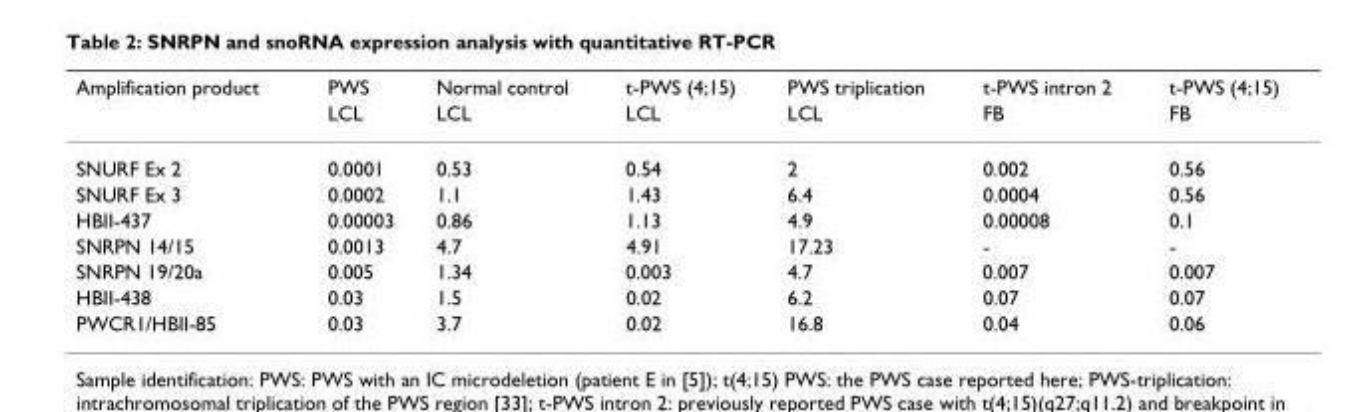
<table><thead><tr><td rowspan="2">Amplification product</td><td rowspan="2">PWS LCL</td><td rowspan="2">Normal control LCL</td><td rowspan="2">t-PWS (4;15) LCL</td><td rowspan="2">PWS triplication LCL</td><td rowspan="2">t-PWS intron 2 FB</td><td rowspan="2">t-PWS (4;15) FB</td></tr><tr></tr></thead><tbody><tr><td>SNURF Ex 2</td><td>0.0001</td><td>0.53</td><td>0.54</td><td>2</td><td>0.002</td><td>0.56</td></tr><tr><td>SNURF Ex 3</td><td>0.0002</td><td>1.1</td><td>1.43</td><td>6.4</td><td>0.0004</td><td>0.56</td></tr><tr><td>HBII-437</td><td>0.00003</td><td>0.86</td><td>1.13</td><td>4.9</td><td>0.00008</td><td>0.1</td></tr><tr><td>SNRPN 14/15</td><td>0.0013</td><td>4.7</td><td>4.91</td><td>17.23</td><td>-</td><td>-</td></tr><tr><td>SNRPN 19/20a</td><td>0.005</td><td>1.34</td><td>0.003</td><td>4.7</td><td>0.007</td><td>0.007</td></tr><tr><td>HBII-438</td><td>0.03</td><td>1.5</td><td>0.02</td><td>6.2</td><td>0.07</td><td>0.07</td></tr><tr><td>PWCR1/HBII-85</td><td>0.03</td><td>3.7</td><td>0.02</td><td>16.8</td><td>0.04</td><td>0.06</td></tr></tbody></table>